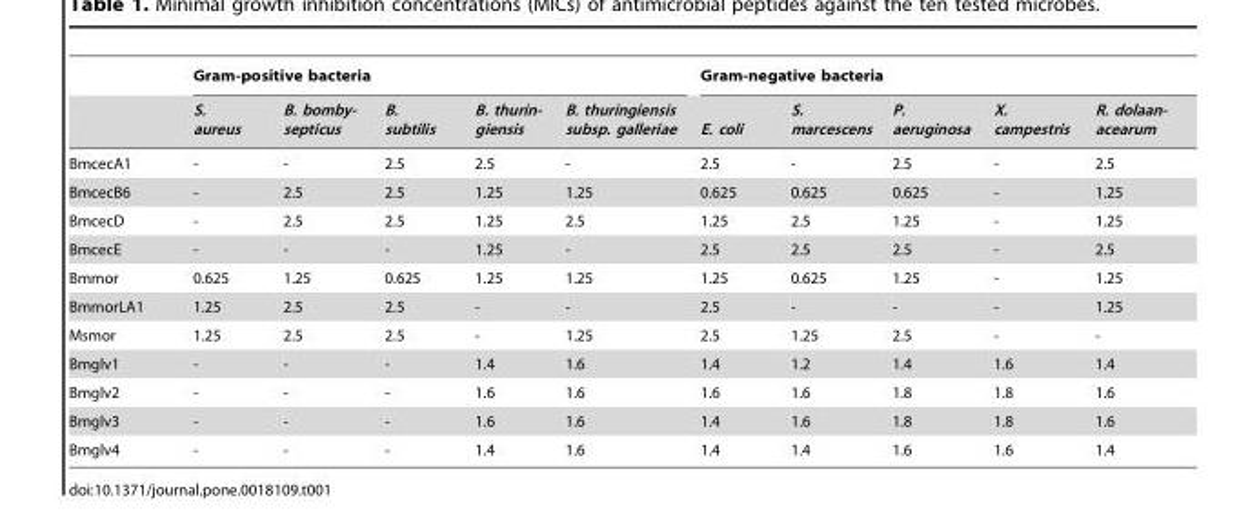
<table><thead><tr><td rowspan="2"></td><td colspan="5">Gram-positive bacteria</td><td colspan="5">Gram-negative bacteria</td></tr><tr><td>S. aureus</td><td>B. bomby- septicus</td><td>B. subtilis</td><td>B. thurin- giensis</td><td>B. thuringiensis subsp. galleriae</td><td>E. coli</td><td>S. marcescens</td><td>P. aeruginosa</td><td>X. campestris</td><td>R. dolaan- acearum</td></tr></thead><tbody><tr><td>BmcecA1</td><td>-</td><td>-</td><td>2.5</td><td>2.5</td><td>-</td><td>2.5</td><td>-</td><td>2.5</td><td>-</td><td>2.5</td></tr><tr><td>BmcecB6</td><td>-</td><td>2.5</td><td>2.5</td><td>1.25</td><td>1.25</td><td>0.625</td><td>0.625</td><td>0.625</td><td>-</td><td>1.25</td></tr><tr><td>BmcecD</td><td>-</td><td>2.5</td><td>2.5</td><td>1.25</td><td>2.5</td><td>1.25</td><td>2.5</td><td>1.25</td><td>-</td><td>1.25</td></tr><tr><td>BmcecE</td><td>-</td><td>-</td><td>-</td><td>1.25</td><td>-</td><td>2.5</td><td>2.5</td><td>2.5</td><td>-</td><td>2.5</td></tr><tr><td>Bmmor</td><td>0.625</td><td>1.25</td><td>0.625</td><td>1.25</td><td>1.25</td><td>1.25</td><td>0.625</td><td>1.25</td><td>-</td><td>1.25</td></tr><tr><td>BmmorLA1</td><td>1.25</td><td>2.5</td><td>2.5</td><td>-</td><td>-</td><td>2.5</td><td>-</td><td>-</td><td>-</td><td>1.25</td></tr><tr><td>Msmor</td><td>1.25</td><td>2.5</td><td>2.5</td><td>-</td><td>1.25</td><td>2.5</td><td>1.25</td><td>2.5</td><td>-</td><td>-</td></tr><tr><td>Bmglv1</td><td>-</td><td>-</td><td>-</td><td>1.4</td><td>1.6</td><td>1.4</td><td>1.2</td><td>1.4</td><td>1.6</td><td>1.4</td></tr><tr><td>Bmglv2</td><td>-</td><td>-</td><td>-</td><td>1.6</td><td>1.6</td><td>1.6</td><td>1.6</td><td>1.8</td><td>1.8</td><td>1.6</td></tr><tr><td>Bmglv3</td><td>-</td><td>-</td><td>-</td><td>1.6</td><td>1.6</td><td>1.4</td><td>1.6</td><td>1.8</td><td>1.8</td><td>1.6</td></tr><tr><td>Bmglv4</td><td>-</td><td>-</td><td>-</td><td>1.4</td><td>1.6</td><td>1.4</td><td>1.4</td><td>1.6</td><td>1.6</td><td>1.4</td></tr></tbody></table>